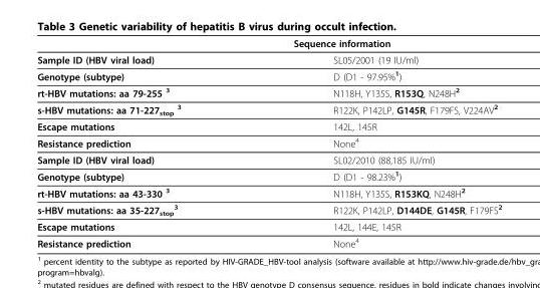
<table><thead><tr><td colspan="2">Sequence information</td></tr><tr><td>Sample ID (HBV viral load)</td><td>SL05/2001 (19 IU/ml)</td></tr></thead><tbody><tr><td>Genotype (subtype)</td><td>D (D1 - 97.95%1)</td></tr><tr><td>rt-HBV mutations: aa 79-255 3</td><td>N118H, Y135S, R153Q, N248H2</td></tr><tr><td>s-HBV mutations: aa 71-227stop 3</td><td>R122K, P142LP, G145R, F179FS, V224AV2</td></tr><tr><td>Escape mutations</td><td>142L, 145R</td></tr><tr><td>Resistance prediction</td><td>None4</td></tr><tr><td>Sample ID (HBV viral load)</td><td>SL02/2010 (88,185 IU/ml)</td></tr><tr><td>Genotype (subtype)</td><td>D (D1 - 98.23%1)</td></tr><tr><td>rt-HBV mutations: aa 43-330 3</td><td>N118H, Y135S, R153KQ, N248H2</td></tr><tr><td>s-HBV mutations: aa 35-227stop 3</td><td>R122K, P142LP, D144DE, G145R, F179FS2</td></tr><tr><td>Escape mutations</td><td>142L, 144E, 145R</td></tr><tr><td>Resistance prediction</td><td>None4</td></tr></tbody></table>